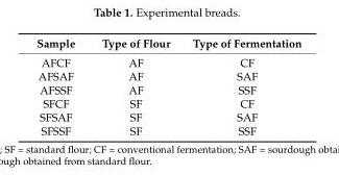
<table><thead><tr><td>Sample</td><td>Type of Flour</td><td>Type of Fermentation</td></tr></thead><tbody><tr><td>AFCF</td><td>AF</td><td>CF</td></tr><tr><td>AFSAF</td><td>AF</td><td>SAF</td></tr><tr><td>AFSSF</td><td>AF</td><td>SSF</td></tr><tr><td>SFCF</td><td>SF</td><td>CF</td></tr><tr><td>SFSAF</td><td>SF</td><td>SAF</td></tr><tr><td>SFSSF</td><td>SF</td><td>SSF</td></tr></tbody></table>